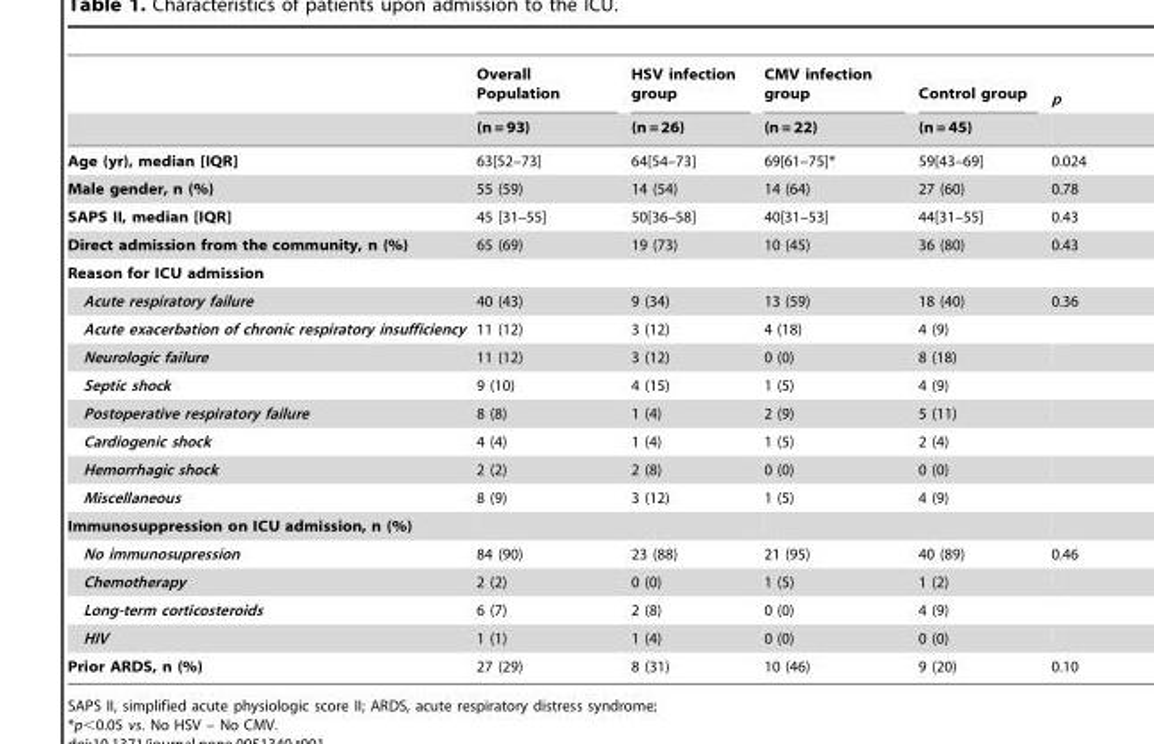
<table><thead><tr><td rowspan="2"></td><td rowspan="2">Overall Population (n = 93)</td><td rowspan="2">HSV infection group (n = 26)</td><td rowspan="2">CMV infection group (n = 22)</td><td rowspan="2">Control group (n = 45)</td><td rowspan="2">p</td></tr><tr></tr></thead><tbody><tr><td>Age (yr), median [IQR]</td><td>63[52–73]</td><td>64[54–73]</td><td>69[61–75]*</td><td>59[43–69]</td><td>0.024</td></tr><tr><td>Male gender, n (%)</td><td>55 (59)</td><td>14 (54)</td><td>14 (64)</td><td>27 (60)</td><td>0.78</td></tr><tr><td>SAPS II, median [IQR]</td><td>45 [31–55]</td><td>50[36–58]</td><td>40[31–53]</td><td>44[31–55]</td><td>0.43</td></tr><tr><td>Direct admission from the community, n (%)</td><td>65 (69)</td><td>19 (73)</td><td>10 (45)</td><td>36 (80)</td><td>0.43</td></tr><tr><td colspan="6">Reason for ICU admission</td></tr><tr><td>Acute respiratory failure</td><td>40 (43)</td><td>9 (34)</td><td>13 (59)</td><td>18 (40)</td><td>0.36</td></tr><tr><td>Acute exacerbation of chronic respiratory insufficiency</td><td>11 (12)</td><td>3 (12)</td><td>4 (18)</td><td>4 (9)</td><td></td></tr><tr><td>Neurologic failure</td><td>11 (12)</td><td>3 (12)</td><td>0 (0)</td><td>8 (18)</td><td></td></tr><tr><td>Septic shock</td><td>9 (10)</td><td>4 (15)</td><td>1 (5)</td><td>4 (9)</td><td></td></tr><tr><td>Postoperative respiratory failure</td><td>8 (8)</td><td>1 (4)</td><td>2 (9)</td><td>5 (11)</td><td></td></tr><tr><td>Cardiogenic shock</td><td>4 (4)</td><td>1 (4)</td><td>1 (5)</td><td>2 (4)</td><td></td></tr><tr><td>Hemorrhagic shock</td><td>2 (2)</td><td>2 (8)</td><td>0 (0)</td><td>0 (0)</td><td></td></tr><tr><td>Miscellaneous</td><td>8 (9)</td><td>3 (12)</td><td>1 (5)</td><td>4 (9)</td><td></td></tr><tr><td colspan="6">Immunosuppression on ICU admission, n (%)</td></tr><tr><td>No immunosupression</td><td>84 (90)</td><td>23 (88)</td><td>21 (95)</td><td>40 (89)</td><td>0.46</td></tr><tr><td>Chemotherapy</td><td>2 (2)</td><td>0 (0)</td><td>1 (5)</td><td>1 (2)</td><td></td></tr><tr><td>Long-term corticosteroids</td><td>6 (7)</td><td>2 (8)</td><td>0 (0)</td><td>4 (9)</td><td></td></tr><tr><td>HIV</td><td>1 (1)</td><td>1 (4)</td><td>0 (0)</td><td>0 (0)</td><td></td></tr><tr><td>Prior ARDS, n (%)</td><td>27 (29)</td><td>8 (31)</td><td>10 (46)</td><td>9 (20)</td><td>0.10</td></tr></tbody></table>